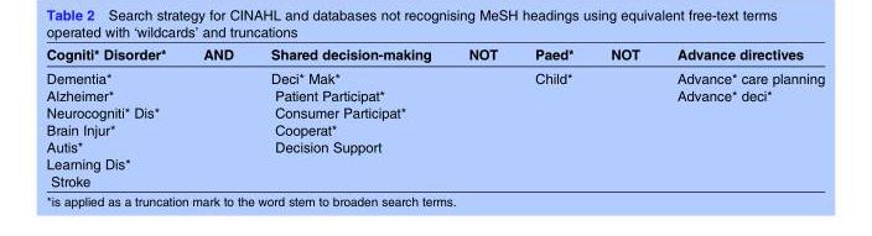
<table><thead><tr><td>Cogniti* Disorder*</td><td>AND</td><td>Shared decision-making</td><td>NOT</td><td>Paed*</td><td>NOT</td><td>Advance directives</td></tr></thead><tbody><tr><td>Dementia*</td><td></td><td>Deci* Mak*</td><td></td><td>Child*</td><td></td><td>Advance* care planning</td></tr><tr><td>Alzheimer*</td><td></td><td>Patient Participat*</td><td></td><td></td><td></td><td>Advance* deci*</td></tr><tr><td>Neurocogniti* Dis*</td><td></td><td>Consumer Participat*</td><td></td><td></td><td></td><td></td></tr><tr><td>Brain Injur*</td><td></td><td>Cooperat*</td><td></td><td></td><td></td><td></td></tr><tr><td>Autis*</td><td></td><td>Decision Support</td><td></td><td></td><td></td><td></td></tr><tr><td colspan="7">Learning Dis*</td></tr><tr><td>Stroke</td><td></td><td></td><td></td><td></td><td></td><td></td></tr></tbody></table>